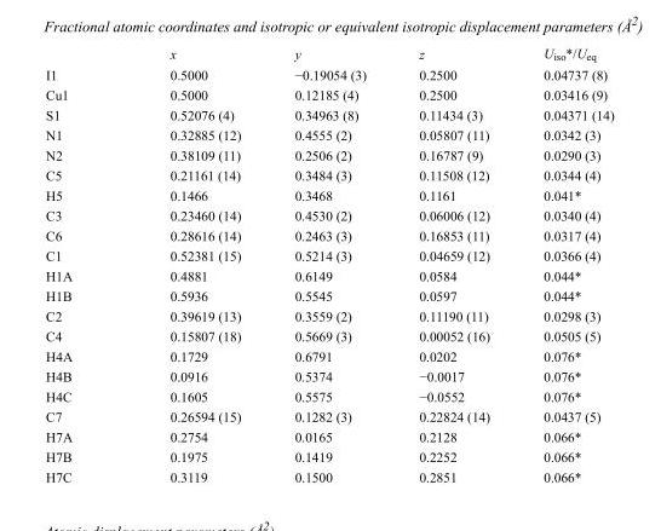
<table><thead><tr><td></td><td>x</td><td>y</td><td>z</td><td>U<sub>iso</sub>*/U<sub>eq</sub></td></tr></thead><tbody><tr><td>I1</td><td>0.5000</td><td>−0.19054 (3)</td><td>0.2500</td><td>0.04737 (8)</td></tr><tr><td>Cu1</td><td>0.5000</td><td>0.12185 (4)</td><td>0.2500</td><td>0.03416 (9)</td></tr><tr><td>S1</td><td>0.52076 (4)</td><td>0.34963 (8)</td><td>0.11434 (3)</td><td>0.04371 (14)</td></tr><tr><td>N1</td><td>0.32885 (12)</td><td>0.4555 (2)</td><td>0.05807 (11)</td><td>0.0342 (3)</td></tr><tr><td>N2</td><td>0.38109 (11)</td><td>0.2506 (2)</td><td>0.16787 (9)</td><td>0.0290 (3)</td></tr><tr><td>C5</td><td>0.21161 (14)</td><td>0.3484 (3)</td><td>0.11508 (12)</td><td>0.0344 (4)</td></tr><tr><td>H5</td><td>0.1466</td><td>0.3468</td><td>0.1161</td><td>0.041*</td></tr><tr><td>C3</td><td>0.23460 (14)</td><td>0.4530 (2)</td><td>0.06006 (12)</td><td>0.0340 (4)</td></tr><tr><td>C6</td><td>0.28616 (14)</td><td>0.2463 (3)</td><td>0.16853 (11)</td><td>0.0317 (4)</td></tr><tr><td>C1</td><td>0.52381 (15)</td><td>0.5214 (3)</td><td>0.04659 (12)</td><td>0.0366 (4)</td></tr><tr><td>H1A</td><td>0.4881</td><td>0.6149</td><td>0.0584</td><td>0.044*</td></tr><tr><td>H1B</td><td>0.5936</td><td>0.5545</td><td>0.0597</td><td>0.044*</td></tr><tr><td>C2</td><td>0.39619 (13)</td><td>0.3559 (2)</td><td>0.11190 (11)</td><td>0.0298 (3)</td></tr><tr><td>C4</td><td>0.15807 (18)</td><td>0.5669 (3)</td><td>0.00052 (16)</td><td>0.0505 (5)</td></tr><tr><td>H4A</td><td>0.1729</td><td>0.6791</td><td>0.0202</td><td>0.076*</td></tr><tr><td>H4B</td><td>0.0916</td><td>0.5374</td><td>−0.0017</td><td>0.076*</td></tr><tr><td>H4C</td><td>0.1605</td><td>0.5575</td><td>−0.0552</td><td>0.076*</td></tr><tr><td>C7</td><td>0.26594 (15)</td><td>0.1282 (3)</td><td>0.22824 (14)</td><td>0.0437 (5)</td></tr><tr><td>H7A</td><td>0.2754</td><td>0.0165</td><td>0.2128</td><td>0.066*</td></tr><tr><td>H7B</td><td>0.1975</td><td>0.1419</td><td>0.2252</td><td>0.066*</td></tr><tr><td>H7C</td><td>0.3119</td><td>0.1500</td><td>0.2851</td><td>0.066*</td></tr></tbody></table>